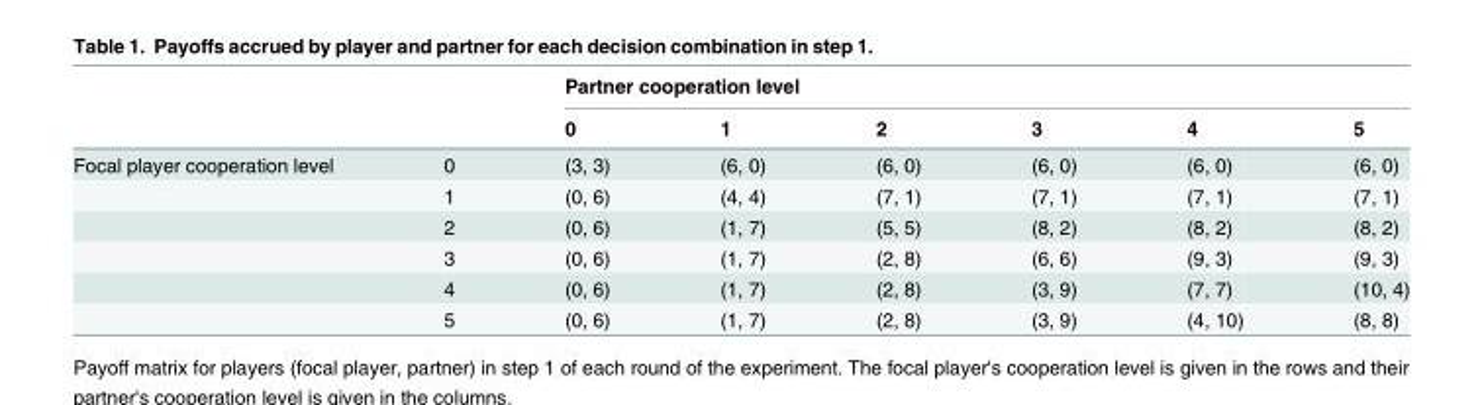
<table><thead><tr><td rowspan="2"></td><td rowspan="2"></td><td colspan="6">Partner cooperation level</td></tr><tr><td>0</td><td>1</td><td>2</td><td>3</td><td>4</td><td>5</td></tr></thead><tbody><tr><td rowspan="6">Focal player cooperation level</td><td>0</td><td>(3, 3)</td><td>(6, 0)</td><td>(6, 0)</td><td>(6, 0)</td><td>(6, 0)</td><td>(6, 0)</td></tr><tr><td>1</td><td>(0, 6)</td><td>(4, 4)</td><td>(7, 1)</td><td>(7, 1)</td><td>(7, 1)</td><td>(7, 1)</td></tr><tr><td>2</td><td>(0, 6)</td><td>(1, 7)</td><td>(5, 5)</td><td>(8, 2)</td><td>(8, 2)</td><td>(8, 2)</td></tr><tr><td>3</td><td>(0, 6)</td><td>(1, 7)</td><td>(2, 8)</td><td>(6, 6)</td><td>(9, 3)</td><td>(9, 3)</td></tr><tr><td>4</td><td>(0, 6)</td><td>(1, 7)</td><td>(2, 8)</td><td>(3, 9)</td><td>(7, 7)</td><td>(10, 4)</td></tr><tr><td>5</td><td>(0, 6)</td><td>(1, 7)</td><td>(2, 8)</td><td>(3, 9)</td><td>(4, 10)</td><td>(8, 8)</td></tr></tbody></table>